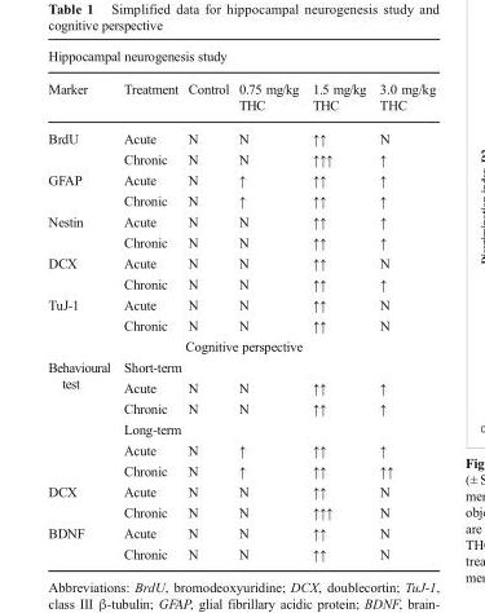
<table><thead><tr><td colspan="6">Hippocampal neurogenesis study</td></tr><tr><td>Marker</td><td>Treatment</td><td>Control</td><td>0.75 mg/kg THC</td><td>1.5 mg/kg THC</td><td>3.0 mg/kg THC</td></tr></thead><tbody><tr><td rowspan="2">BrdU</td><td>Acute</td><td>N</td><td>N</td><td>↑↑</td><td>N</td></tr><tr><td>Chronic</td><td>N</td><td>N</td><td>↑↑↑</td><td>↑</td></tr><tr><td rowspan="2">GFAP</td><td>Acute</td><td>N</td><td>↑</td><td>↑↑</td><td>↑</td></tr><tr><td>Chronic</td><td>N</td><td>↑</td><td>↑↑</td><td>↑</td></tr><tr><td rowspan="2">Nestin</td><td>Acute</td><td>N</td><td>N</td><td>↑↑</td><td>↑</td></tr><tr><td>Chronic</td><td>N</td><td>N</td><td>↑↑</td><td>↑</td></tr><tr><td rowspan="2">DCX</td><td>Acute</td><td>N</td><td>N</td><td>↑↑</td><td>N</td></tr><tr><td>Chronic</td><td>N</td><td>N</td><td>↑↑</td><td>↑</td></tr><tr><td rowspan="2">TuJ-1</td><td>Acute</td><td>N</td><td>N</td><td>↑↑</td><td>N</td></tr><tr><td>Chronic</td><td>N</td><td>N</td><td>↑↑</td><td>N</td></tr><tr><td colspan="6">Cognitive perspective</td></tr><tr><td rowspan="6">Behavioural test</td><td colspan="5">Short-term</td></tr><tr><td>Acute</td><td>N</td><td>N</td><td>↑↑</td><td>↑</td></tr><tr><td>Chronic</td><td>N</td><td>N</td><td>↑↑</td><td>↑</td></tr><tr><td colspan="5">Long-term</td></tr><tr><td>Acute</td><td>N</td><td>↑</td><td>↑↑</td><td>↑</td></tr><tr><td>Chronic</td><td>N</td><td>↑</td><td>↑↑</td><td>↑↑</td></tr><tr><td rowspan="2">DCX</td><td>Acute</td><td>N</td><td>N</td><td>↑↑</td><td>N</td></tr><tr><td>Chronic</td><td>N</td><td>N</td><td>↑↑↑</td><td>N</td></tr><tr><td rowspan="2">BDNF</td><td>Acute</td><td>N</td><td>N</td><td>↑↑</td><td>N</td></tr><tr><td>Chronic</td><td>N</td><td>N</td><td>↑↑</td><td>N</td></tr></tbody></table>